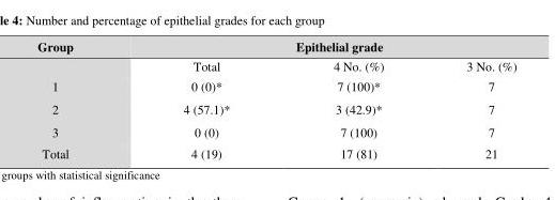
<table><thead><tr><td rowspan="2">Group</td><td colspan="3">Epithelial grade</td></tr><tr><td>Total</td><td>4 No. (%)</td><td>3 No. (%)</td></tr></thead><tbody><tr><td>1</td><td>0 (0)*</td><td>7 (100)*</td><td>7</td></tr><tr><td>2</td><td>4 (57.1)*</td><td>3 (42.9)*</td><td>7</td></tr><tr><td>3</td><td>0 (0)</td><td>7 (100)</td><td>7</td></tr><tr><td>Total</td><td>4 (19)</td><td>17 (81)</td><td>21</td></tr></tbody></table>